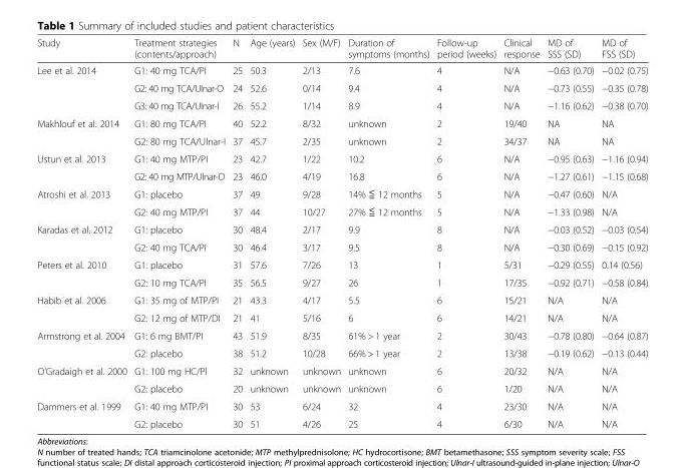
<table><thead><tr><td>Study</td><td>Treatment strategies (contents/approach)</td><td>N</td><td>Age (years)</td><td>Sex (M/F)</td><td>Duration of symptoms (months)</td><td>Follow-up period (weeks)</td><td>Clinical response</td><td>MD of SSS (SD)</td><td>MD of FSS (SD)</td></tr></thead><tbody><tr><td rowspan="3">Lee et al. 2014</td><td>G1: 40 mg TCA/PI</td><td>25</td><td>50.3</td><td>2/13</td><td>7.6</td><td>4</td><td>N/A</td><td>−0.63 (0.70)</td><td>−0.02 (0.75)</td></tr><tr><td>G2: 40 mg TCA/UInar-O</td><td>24</td><td>52.6</td><td>0/14</td><td>9.4</td><td>4</td><td>N/A</td><td>−0.73 (0.55)</td><td>−0.35 (0.78)</td></tr><tr><td>G3: 40 mg TCA/UInar-I</td><td>26</td><td>55.2</td><td>1/14</td><td>8.9</td><td>4</td><td>N/A</td><td>−1.16 (0.62)</td><td>−0.38 (0.70)</td></tr><tr><td rowspan="2">Makhlouf et al. 2014</td><td>G1: 80 mg TCA/PI</td><td>40</td><td>52.2</td><td>8/32</td><td>unknown</td><td>2</td><td>19/40</td><td>NA</td><td>NA</td></tr><tr><td>G2: 80 mg TCA/Ulnar-I</td><td>37</td><td>45.7</td><td>2/35</td><td>unknown</td><td>2</td><td>34/37</td><td>NA</td><td>NA</td></tr><tr><td rowspan="2">Ustun et al. 2013</td><td>G1: 40 mg MTP/PI</td><td>23</td><td>42.7</td><td>1/22</td><td>10.2</td><td>6</td><td>N/A</td><td>−0.95 (0.63)</td><td>−1.16 (0.94)</td></tr><tr><td>G2: 40 mg MTP/Ulnar-O</td><td>23</td><td>46.0</td><td>4/19</td><td>16.8</td><td>6</td><td>N/A</td><td>−1.27 (0.61)</td><td>−1.15 (0.68)</td></tr><tr><td rowspan="2">Atroshi et al. 2013</td><td>G1: placebo</td><td>37</td><td>49</td><td>9/28</td><td>14% ≦ 12 months</td><td>5</td><td>N/A</td><td>−0.47 (0.60)</td><td>N/A</td></tr><tr><td>G2: 40 mg MTP/PI</td><td>37</td><td>44</td><td>10/27</td><td>27% ≦ 12 months</td><td>5</td><td>N/A</td><td>−1.33 (0.98)</td><td>N/A</td></tr><tr><td rowspan="2">Karadas et al. 2012</td><td>G1: placebo</td><td>30</td><td>48.4</td><td>2/17</td><td>9.9</td><td>8</td><td>N/A</td><td>−0.03 (0.52)</td><td>−0.03 (0.54)</td></tr><tr><td>G2: 40 mg TCA/PI</td><td>30</td><td>46.4</td><td>3/17</td><td>9.5</td><td>8</td><td>N/A</td><td>−0.30 (0.69)</td><td>−0.15 (0.92)</td></tr><tr><td rowspan="2">Peters et al. 2010</td><td>G1: placebo</td><td>31</td><td>57.6</td><td>7/26</td><td>13</td><td>1</td><td>5/31</td><td>−0.29 (0.55)</td><td>0.14 (0.56)</td></tr><tr><td>G2: 10 mg TCA/PI</td><td>35</td><td>56.5</td><td>9/27</td><td>26</td><td>1</td><td>17/35</td><td>−0.92 (0.71)</td><td>−0.58 (0.84)</td></tr><tr><td rowspan="2">Habib et al. 2006</td><td>G1: 35 mg of MTP/PI</td><td>21</td><td>43.3</td><td>4/17</td><td>5.5</td><td>6</td><td>15/21</td><td>N/A</td><td>N/A</td></tr><tr><td>G2: 12 mg of MTP/DI</td><td>21</td><td>41</td><td>5/16</td><td>6</td><td>6</td><td>14/21</td><td>N/A</td><td>N/A</td></tr><tr><td rowspan="2">Armstrong et al. 2004</td><td>G1: 6 mg BMT/PI</td><td>43</td><td>51.9</td><td>8/35</td><td>61% &gt; 1 year</td><td>2</td><td>30/43</td><td>−0.78 (0.80)</td><td>−0.64 (0.87)</td></tr><tr><td>G2: placebo</td><td>38</td><td>51.2</td><td>10/28</td><td>66% &gt; 1 year</td><td>2</td><td>13/38</td><td>−0.19 (0.62)</td><td>−0.13 (0.44)</td></tr><tr><td rowspan="2">O’Gradaigh et al. 2000</td><td>G1: 100 mg HC/PI</td><td>32</td><td>unknown</td><td>unknown</td><td>unknown</td><td>6</td><td>20/32</td><td>N/A</td><td>N/A</td></tr><tr><td>G2: placebo</td><td>20</td><td>unknown</td><td>unknown</td><td>unknown</td><td>6</td><td>1/20</td><td>N/A</td><td>N/A</td></tr><tr><td rowspan="2">Dammers et al. 1999</td><td>G1: 40 mg MTP/PI</td><td>30</td><td>53</td><td>6/24</td><td>32</td><td>4</td><td>23/30</td><td>N/A</td><td>N/A</td></tr><tr><td>G2: placebo</td><td>30</td><td>51</td><td>4/26</td><td>25</td><td>4</td><td>6/30</td><td>N/A</td><td>N/A</td></tr></tbody></table>